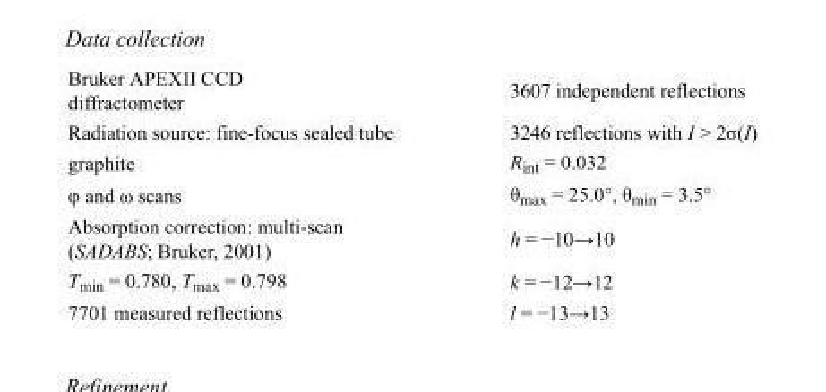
<table><tbody><tr><td>Bruker APEXII CCD diffractometer</td><td>3607 independent reflections</td></tr><tr><td>Radiation source: fine-focus sealed tube</td><td>3246 reflections with I &gt; 2σ(I)</td></tr><tr><td>graphite</td><td>R<sub>int</sub> = 0.032</td></tr><tr><td>φ and ω scans</td><td>θ<sub>max</sub> = 25.0°, θ<sub>min</sub> = 3.5°</td></tr><tr><td>Absorption correction: multi-scan (SADABS; Bruker, 2001)</td><td>h = −10→10</td></tr><tr><td>T<sub>min</sub> = 0.780, T<sub>max</sub> = 0.798</td><td>k = −12→12</td></tr><tr><td>7701 measured reflections</td><td>l = −13→13</td></tr></tbody></table>